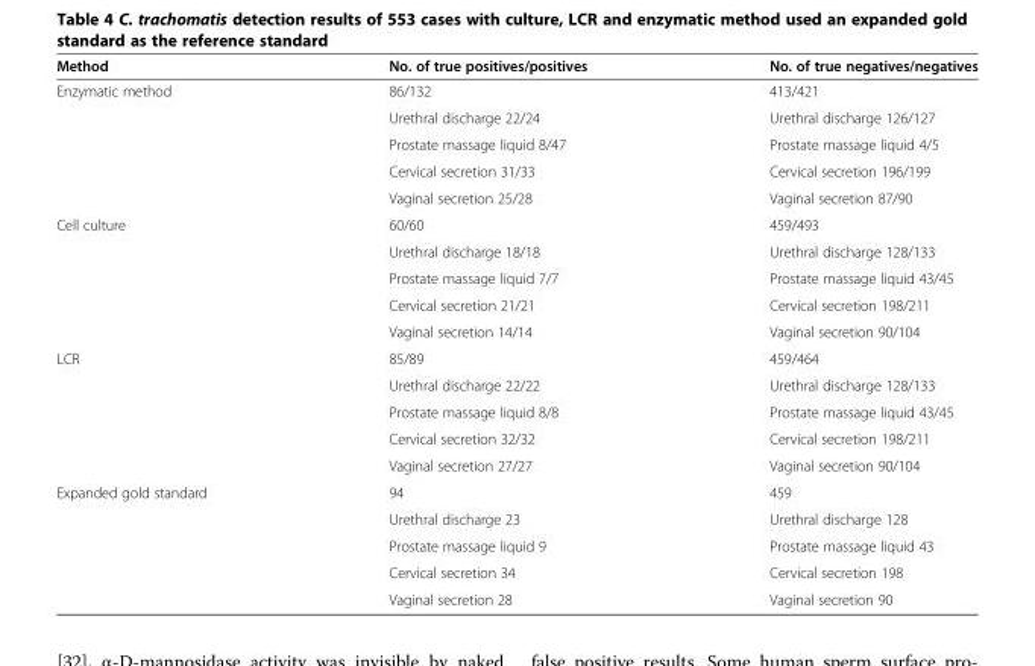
<table><thead><tr><td>Method</td><td>No. of true positives/positives</td><td>No. of true negatives/negatives</td></tr></thead><tbody><tr><td rowspan="5">Enzymatic method</td><td>86/132</td><td>413/421</td></tr><tr><td>Urethral discharge 22/24</td><td>Urethral discharge 126/127</td></tr><tr><td>Prostate massage liquid 8/47</td><td>Prostate massage liquid 4/5</td></tr><tr><td>Cervical secretion 31/33</td><td>Cervical secretion 196/199</td></tr><tr><td>Vaginal secretion 25/28</td><td>Vaginal secretion 87/90</td></tr><tr><td rowspan="5">Cell culture</td><td>60/60</td><td>459/493</td></tr><tr><td>Urethral discharge 18/18</td><td>Urethral discharge 128/133</td></tr><tr><td>Prostate massage liquid 7/7</td><td>Prostate massage liquid 43/45</td></tr><tr><td>Cervical secretion 21/21</td><td>Cervical secretion 198/211</td></tr><tr><td>Vaginal secretion 14/14</td><td>Vaginal secretion 90/104</td></tr><tr><td rowspan="5">LCR</td><td>85/89</td><td>459/464</td></tr><tr><td>Urethral discharge 22/22</td><td>Urethral discharge 128/133</td></tr><tr><td>Prostate massage liquid 8/8</td><td>Prostate massage liquid 43/45</td></tr><tr><td>Cervical secretion 32/32</td><td>Cervical secretion 198/211</td></tr><tr><td>Vaginal secretion 27/27</td><td>Vaginal secretion 90/104</td></tr><tr><td rowspan="5">Expanded gold standard</td><td>94</td><td>459</td></tr><tr><td>Urethral discharge 23</td><td>Urethral discharge 128</td></tr><tr><td>Prostate massage liquid 9</td><td>Prostate massage liquid 43</td></tr><tr><td>Cervical secretion 34</td><td>Cervical secretion 198</td></tr><tr><td>Vaginal secretion 28</td><td>Vaginal secretion 90</td></tr></tbody></table>